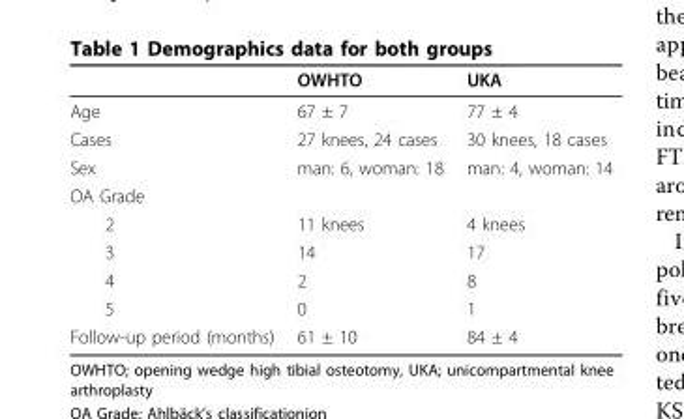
<table><thead><tr><td></td><td>OWHTO</td><td>UKA</td></tr></thead><tbody><tr><td>Age</td><td>67 ± 7</td><td>77 ± 4</td></tr><tr><td>Cases</td><td>27 knees, 24 cases</td><td>30 knees, 18 cases</td></tr><tr><td>Sex</td><td>man: 6, woman: 18</td><td>man: 4, woman: 14</td></tr><tr><td colspan="3">OA Grade</td></tr><tr><td>2</td><td>11 knees</td><td>4 knees</td></tr><tr><td>3</td><td>14</td><td>17</td></tr><tr><td>4</td><td>2</td><td>8</td></tr><tr><td>5</td><td>0</td><td>1</td></tr><tr><td>Follow-up period (months)</td><td>61 ± 10</td><td>84 ± 4</td></tr></tbody></table>